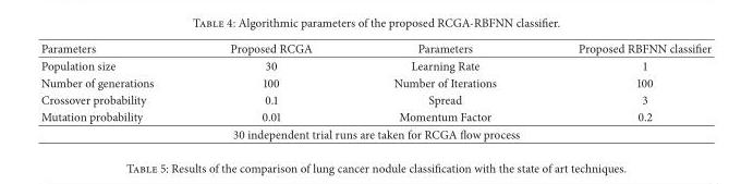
<table><thead><tr><td>Parameters</td><td>Proposed RCGA</td><td>Parameters</td><td>Proposed RBFNN classifier</td></tr></thead><tbody><tr><td>Population size</td><td>30</td><td>Learning Rate</td><td>1</td></tr><tr><td>Number of generations</td><td>100</td><td>Number of Iterations</td><td>100</td></tr><tr><td>Crossover probability</td><td>0.1</td><td>Spread</td><td>3</td></tr><tr><td>Mutation probability</td><td>0.01</td><td>Momentum Factor</td><td>0.2</td></tr><tr><td colspan="4">30 independent trial runs are taken for RCGA flow process</td></tr></tbody></table>